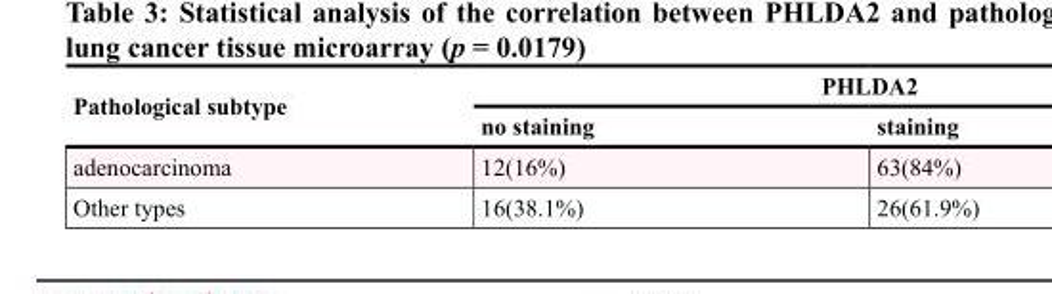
<table><thead><tr><td rowspan="2">Pathological subtype</td><td colspan="2">PHLDA2</td></tr><tr><td>no staining</td><td>staining</td></tr></thead><tbody><tr><td>adenocarcinoma</td><td>12(16%)</td><td>63(84%)</td></tr><tr><td>Other types</td><td>16(38.1%)</td><td>26(61.9%)</td></tr></tbody></table>